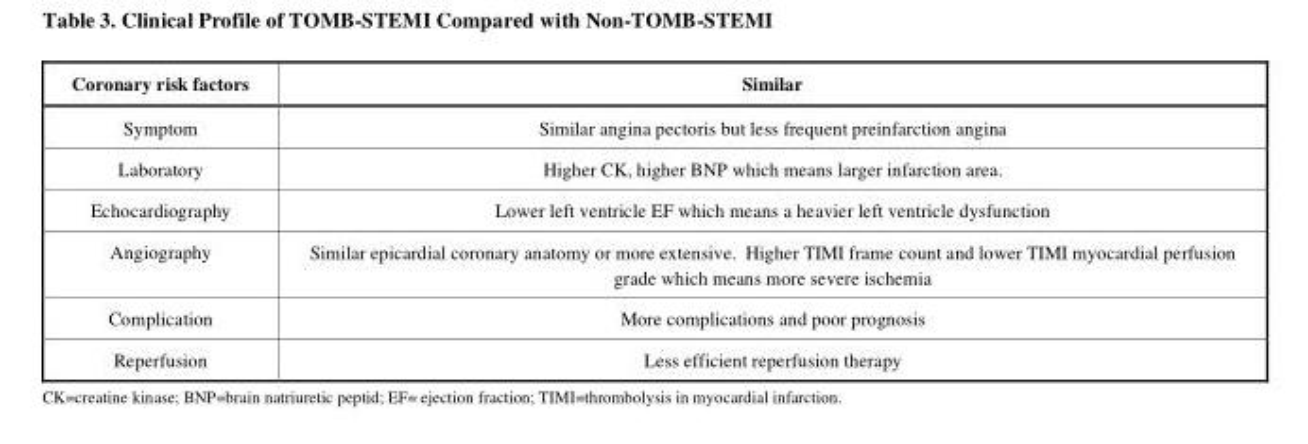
<table><thead><tr><td>Coronary risk factors</td><td>Similar</td></tr></thead><tbody><tr><td>Symptom</td><td>Similar angina pectoris but less frequent preinfarction angina</td></tr><tr><td>Laboratory</td><td>Higher CK, higher BNP which means larger infarction area.</td></tr><tr><td>Echocardiography</td><td>Lower left ventricle EF which means a heavier left ventricle dysfunction</td></tr><tr><td>Angiography</td><td>Similar epicardial coronary anatomy or more extensive. Higher TIMI frame count and lower TIMI myocardial perfusion grade which means more severe ischemia</td></tr><tr><td>Complication</td><td>More complications and poor prognosis</td></tr><tr><td>Reperfusion</td><td>Less efficient reperfusion therapy</td></tr></tbody></table>